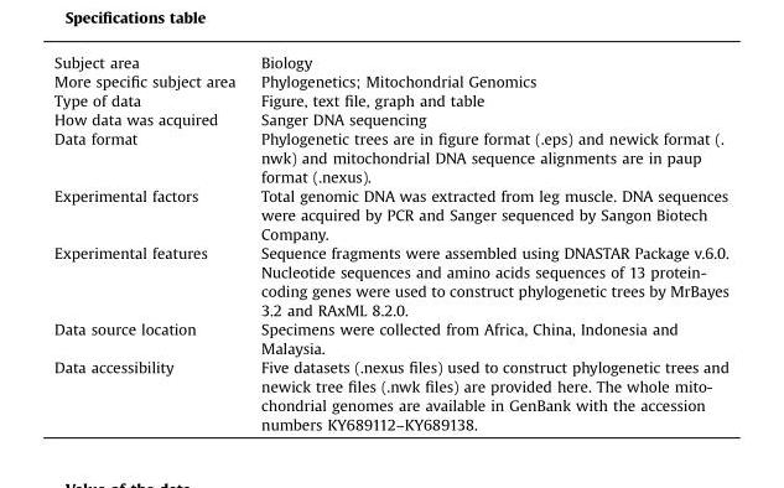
<table><tbody><tr><td>Subject area</td><td>Biology</td></tr><tr><td>More specific subject area</td><td>Phylogenetics; Mitochondrial Genomics</td></tr><tr><td>Type of data</td><td>Figure, text file, graph and table</td></tr><tr><td>How data was acquired</td><td>Sanger DNA sequencing</td></tr><tr><td>Data format</td><td>Phylogenetic trees are in figure format (.eps) and newick format (. nwk) and mitochondrial DNA sequence alignments are in paup format (.nexus).</td></tr><tr><td>Experimental factors</td><td>Total genomic DNA was extracted from leg muscle. DNA sequences were acquired by PCR and Sanger sequenced by Sangon Biotech Company.</td></tr><tr><td>Experimental features</td><td>Sequence fragments were assembled using DNASTAR Package v.6.0. Nucleotide sequences and amino acids sequences of 13 protein- coding genes were used to construct phylogenetic trees by MrBayes 3.2 and RAxML 8.2.0.</td></tr><tr><td>Data source location</td><td>Specimens were collected from Africa, China, Indonesia and Malaysia.</td></tr><tr><td>Data accessibility</td><td>Five datasets (.nexus files) used to construct phylogenetic trees and newick tree files (.nwk files) are provided here. The whole mito- chondrial genomes are available in GenBank with the accession numbers KY689112–KY689138.</td></tr></tbody></table>